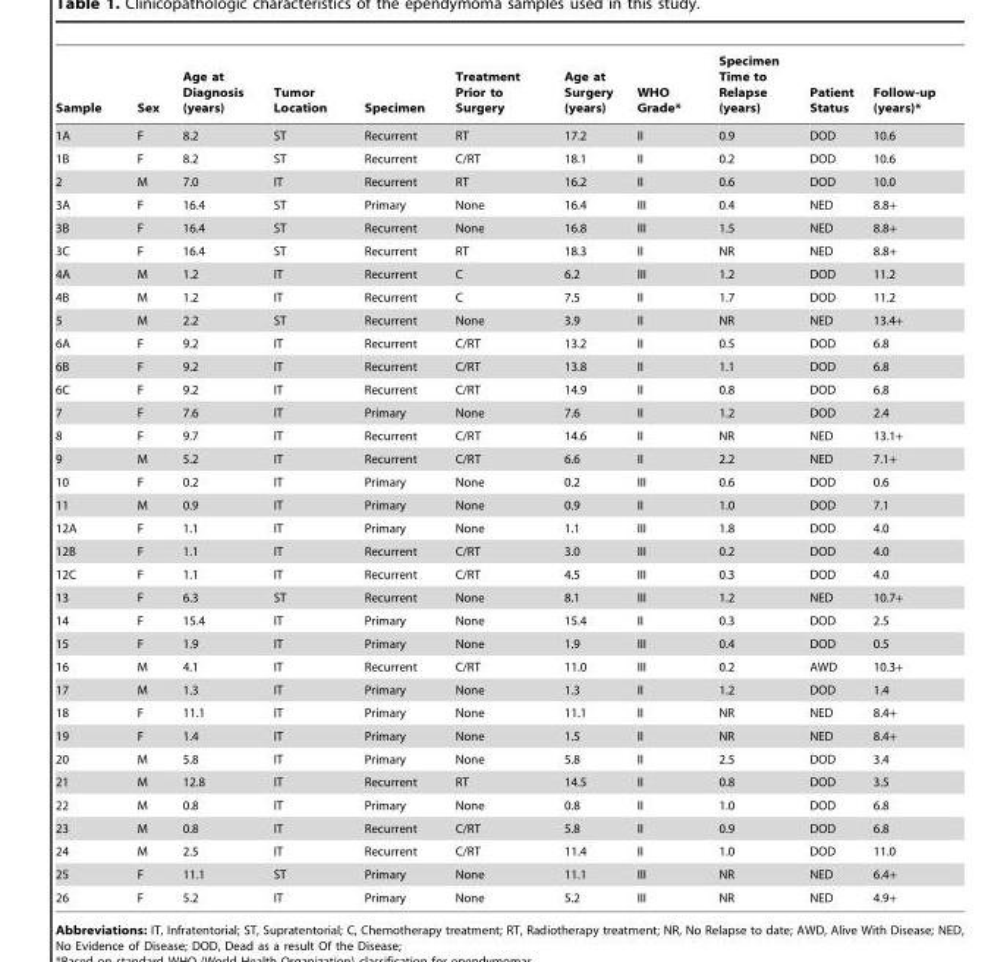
<table><thead><tr><td>Sample</td><td>Sex</td><td>Age at Diagnosis (years)</td><td>Tumor Location</td><td>Specimen</td><td>Treatment Prior to Surgery</td><td>Age at Surgery (years)</td><td>WHO Grade*</td><td>Specimen Time to Relapse (years)</td><td>Patient Status</td><td>Follow-up (years)*</td></tr></thead><tbody><tr><td>1A</td><td>F</td><td>8.2</td><td>ST</td><td>Recurrent</td><td>RT</td><td>17.2</td><td>II</td><td>0.9</td><td>DOD</td><td>10.6</td></tr><tr><td>1B</td><td>F</td><td>8.2</td><td>ST</td><td>Recurrent</td><td>C/RT</td><td>18.1</td><td>II</td><td>0.2</td><td>DOD</td><td>10.6</td></tr><tr><td>2</td><td>M</td><td>7.0</td><td>IT</td><td>Recurrent</td><td>RT</td><td>16.2</td><td>II</td><td>0.6</td><td>DOD</td><td>10.0</td></tr><tr><td>3A</td><td>F</td><td>16.4</td><td>ST</td><td>Primary</td><td>None</td><td>16.4</td><td>III</td><td>0.4</td><td>NED</td><td>8.8+</td></tr><tr><td>3B</td><td>F</td><td>16.4</td><td>ST</td><td>Recurrent</td><td>None</td><td>16.8</td><td>III</td><td>1.5</td><td>NED</td><td>8.8+</td></tr><tr><td>3C</td><td>F</td><td>16.4</td><td>ST</td><td>Recurrent</td><td>RT</td><td>18.3</td><td>II</td><td>NR</td><td>NED</td><td>8.8+</td></tr><tr><td>4A</td><td>M</td><td>1.2</td><td>IT</td><td>Recurrent</td><td>C</td><td>6.2</td><td>III</td><td>1.2</td><td>DOD</td><td>11.2</td></tr><tr><td>4B</td><td>M</td><td>1.2</td><td>IT</td><td>Recurrent</td><td>C</td><td>7.5</td><td>II</td><td>1.7</td><td>DOD</td><td>11.2</td></tr><tr><td>5</td><td>M</td><td>2.2</td><td>ST</td><td>Recurrent</td><td>None</td><td>3.9</td><td>II</td><td>NR</td><td>NED</td><td>13.4+</td></tr><tr><td>6A</td><td>F</td><td>9.2</td><td>IT</td><td>Recurrent</td><td>C/RT</td><td>13.2</td><td>II</td><td>0.5</td><td>DOD</td><td>6.8</td></tr><tr><td>6B</td><td>F</td><td>9.2</td><td>IT</td><td>Recurrent</td><td>C/RT</td><td>13.8</td><td>II</td><td>1.1</td><td>DOD</td><td>6.8</td></tr><tr><td>6C</td><td>F</td><td>9.2</td><td>IT</td><td>Recurrent</td><td>C/RT</td><td>14.9</td><td>II</td><td>0.8</td><td>DOD</td><td>6.8</td></tr><tr><td>7</td><td>F</td><td>7.6</td><td>IT</td><td>Primary</td><td>None</td><td>7.6</td><td>II</td><td>1.2</td><td>DOD</td><td>2.4</td></tr><tr><td>8</td><td>F</td><td>9.7</td><td>IT</td><td>Recurrent</td><td>C/RT</td><td>14.6</td><td>II</td><td>NR</td><td>NED</td><td>13.1+</td></tr><tr><td>9</td><td>M</td><td>5.2</td><td>IT</td><td>Recurrent</td><td>C/RT</td><td>6.6</td><td>II</td><td>2.2</td><td>NED</td><td>7.1+</td></tr><tr><td>10</td><td>F</td><td>0.2</td><td>IT</td><td>Primary</td><td>None</td><td>0.2</td><td>III</td><td>0.6</td><td>DOD</td><td>0.6</td></tr><tr><td>11</td><td>M</td><td>0.9</td><td>IT</td><td>Primary</td><td>None</td><td>0.9</td><td>II</td><td>1.0</td><td>DOD</td><td>7.1</td></tr><tr><td>12A</td><td>F</td><td>1.1</td><td>IT</td><td>Primary</td><td>None</td><td>1.1</td><td>III</td><td>1.8</td><td>DOD</td><td>4.0</td></tr><tr><td>12B</td><td>F</td><td>1.1</td><td>IT</td><td>Recurrent</td><td>C/RT</td><td>3.0</td><td>III</td><td>0.2</td><td>DOD</td><td>4.0</td></tr><tr><td>12C</td><td>F</td><td>1.1</td><td>IT</td><td>Recurrent</td><td>C/RT</td><td>4.5</td><td>III</td><td>0.3</td><td>DOD</td><td>4.0</td></tr><tr><td>13</td><td>F</td><td>6.3</td><td>ST</td><td>Recurrent</td><td>None</td><td>8.1</td><td>III</td><td>1.2</td><td>NED</td><td>10.7+</td></tr><tr><td>14</td><td>F</td><td>15.4</td><td>IT</td><td>Primary</td><td>None</td><td>15.4</td><td>II</td><td>0.3</td><td>DOD</td><td>2.5</td></tr><tr><td>15</td><td>F</td><td>1.9</td><td>IT</td><td>Primary</td><td>None</td><td>1.9</td><td>III</td><td>0.4</td><td>DOD</td><td>0.5</td></tr><tr><td>16</td><td>M</td><td>4.1</td><td>IT</td><td>Recurrent</td><td>C/RT</td><td>11.0</td><td>III</td><td>0.2</td><td>AWD</td><td>10.3+</td></tr><tr><td>17</td><td>M</td><td>1.3</td><td>IT</td><td>Primary</td><td>None</td><td>1.3</td><td>II</td><td>1.2</td><td>DOD</td><td>1.4</td></tr><tr><td>18</td><td>F</td><td>11.1</td><td>IT</td><td>Primary</td><td>None</td><td>11.1</td><td>II</td><td>NR</td><td>NED</td><td>8.4+</td></tr><tr><td>19</td><td>F</td><td>1.4</td><td>IT</td><td>Primary</td><td>None</td><td>1.5</td><td>II</td><td>NR</td><td>NED</td><td>8.4+</td></tr><tr><td>20</td><td>M</td><td>5.8</td><td>IT</td><td>Primary</td><td>None</td><td>5.8</td><td>II</td><td>2.5</td><td>DOD</td><td>3.4</td></tr><tr><td>21</td><td>M</td><td>12.8</td><td>IT</td><td>Recurrent</td><td>RT</td><td>14.5</td><td>II</td><td>0.8</td><td>DOD</td><td>3.5</td></tr><tr><td>22</td><td>M</td><td>0.8</td><td>IT</td><td>Primary</td><td>None</td><td>0.8</td><td>II</td><td>1.0</td><td>DOD</td><td>6.8</td></tr><tr><td>23</td><td>M</td><td>0.8</td><td>IT</td><td>Recurrent</td><td>C/RT</td><td>5.8</td><td>II</td><td>0.9</td><td>DOD</td><td>6.8</td></tr><tr><td>24</td><td>M</td><td>2.5</td><td>IT</td><td>Recurrent</td><td>C/RT</td><td>11.4</td><td>II</td><td>1.0</td><td>DOD</td><td>11.0</td></tr><tr><td>25</td><td>F</td><td>11.1</td><td>ST</td><td>Primary</td><td>None</td><td>11.1</td><td>III</td><td>NR</td><td>NED</td><td>6.4+</td></tr><tr><td>26</td><td>F</td><td>5.2</td><td>IT</td><td>Primary</td><td>None</td><td>5.2</td><td>III</td><td>NR</td><td>NED</td><td>4.9+</td></tr></tbody></table>